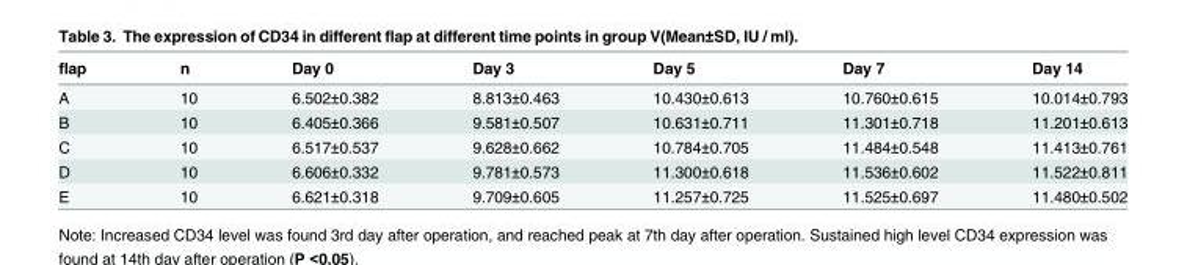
<table><thead><tr><td>flap</td><td>n</td><td>Day 0</td><td>Day 3</td><td>Day 5</td><td>Day 7</td><td>Day 14</td></tr></thead><tbody><tr><td>A</td><td>10</td><td>6.502±0.382</td><td>8.813±0.463</td><td>10.430±0.613</td><td>10.760±0.615</td><td>10.014±0.793</td></tr><tr><td>B</td><td>10</td><td>6.405±0.366</td><td>9.581±0.507</td><td>10.631±0.711</td><td>11.301±0.718</td><td>11.201±0.613</td></tr><tr><td>C</td><td>10</td><td>6.517±0.537</td><td>9.628±0.662</td><td>10.784±0.705</td><td>11.484±0.548</td><td>11.413±0.761</td></tr><tr><td>D</td><td>10</td><td>6.606±0.332</td><td>9.781±0.573</td><td>11.300±0.618</td><td>11.536±0.602</td><td>11.522±0.811</td></tr><tr><td>E</td><td>10</td><td>6.621±0.318</td><td>9.709±0.605</td><td>11.257±0.725</td><td>11.525±0.697</td><td>11.480±0.502</td></tr></tbody></table>